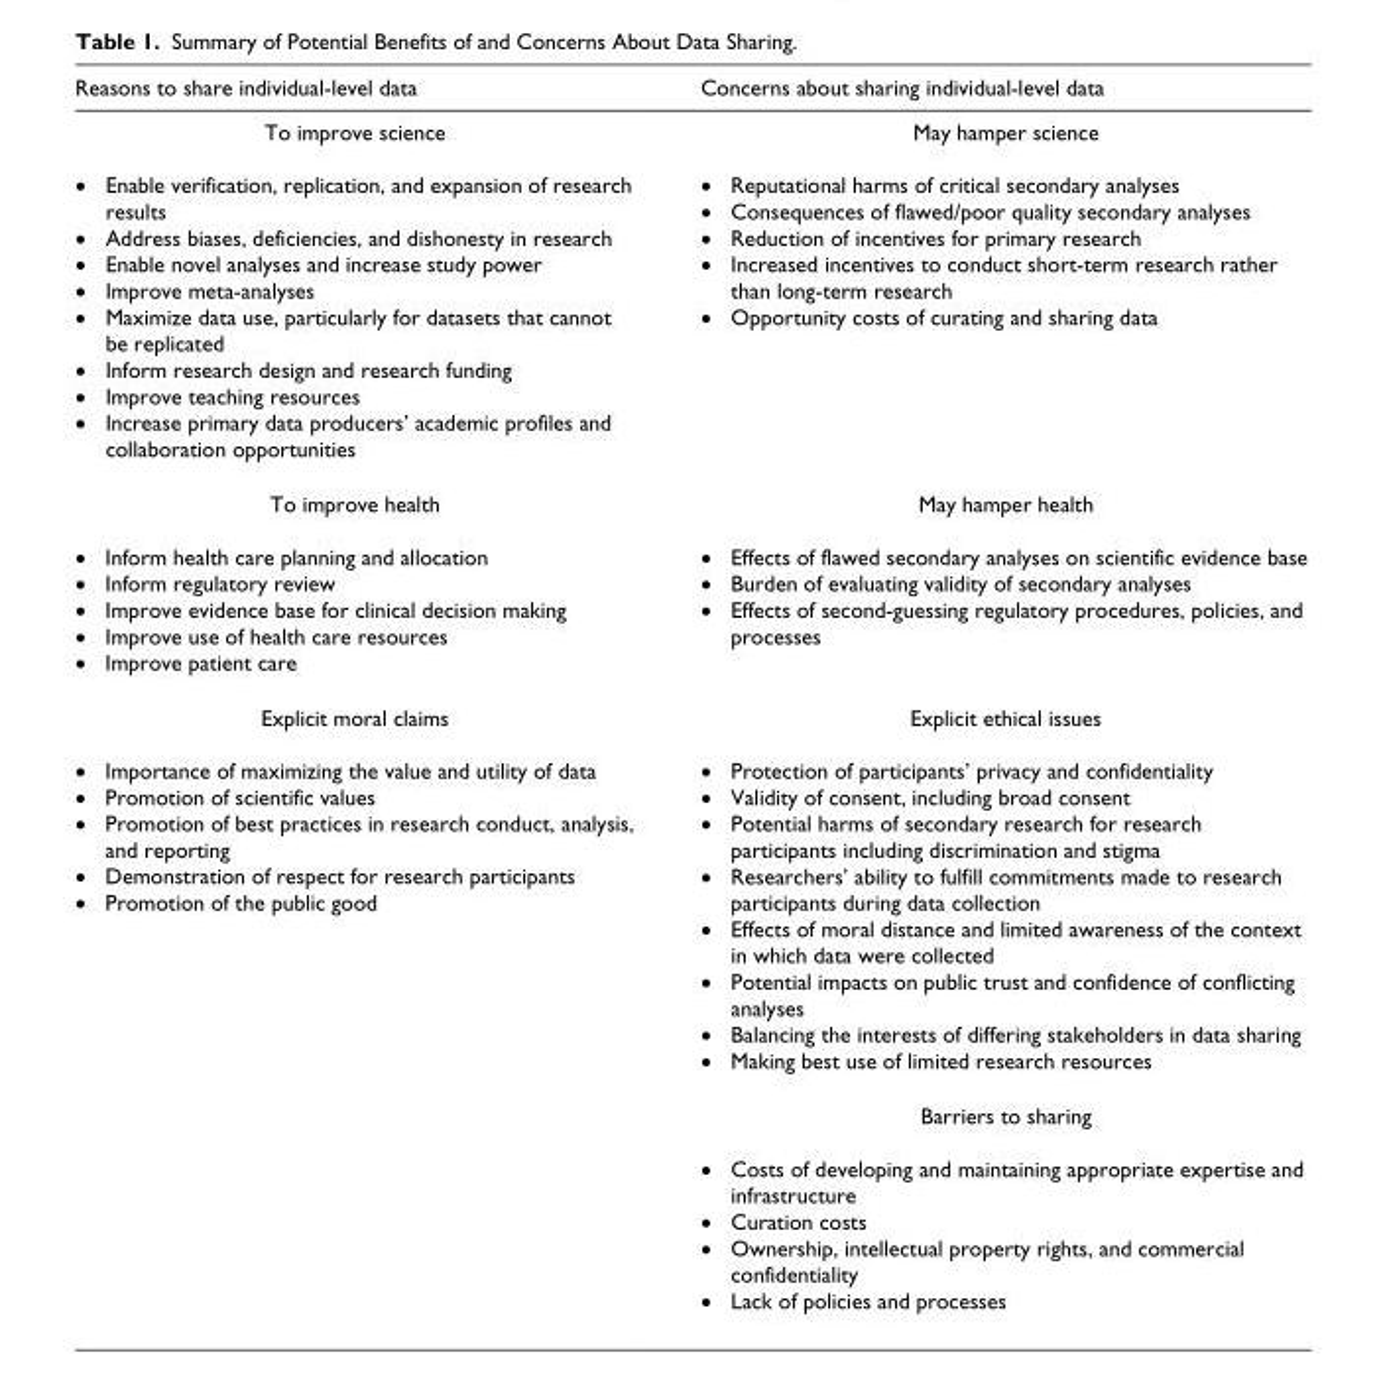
<table><thead><tr><td>Reasons to share individual-level data</td><td>Concerns about sharing individual-level data</td></tr></thead><tbody><tr><td>To improve science •• Enable verification, replication, and expansion of research results •• Address biases, deficiencies, and dishonesty in research •• Enable novel analyses and increase study power •• Improve meta-analyses •• Maximize data use, particularly for datasets that cannot be replicated •• Inform research design and research funding •• Improve teaching resources •• Increase primary data producers’ academic profiles and collaboration opportunities</td><td>May hamper science •• Reputational harms of critical secondary analyses •• Consequences of flawed/poor quality secondary analyses •• Reduction of incentives for primary research •• Increased incentives to conduct short-term research rather than long-term research •• Opportunity costs of curating and sharing data</td></tr><tr><td>To improve health •• Inform health care planning and allocation •• Inform regulatory review •• Improve evidence base for clinical decision making •• Improve use of health care resources •• Improve patient care</td><td>May hamper health •• Effects of flawed secondary analyses on scientific evidence base •• Burden of evaluating validity of secondary analyses •• Effects of second-guessing regulatory procedures, policies, and processes</td></tr><tr><td rowspan="2">Explicit moral claims •• Importance of maximizing the value and utility of data •• Promotion of scientific values •• Promotion of best practices in research conduct, analysis, and reporting •• Demonstration of respect for research participants •• Promotion of the public good</td><td>Explicit ethical issues •• Protection of participants’ privacy and confidentiality •• Validity of consent, including broad consent •• Potential harms of secondary research for research participants including discrimination and stigma •• Researchers’ ability to fulfill commitments made to research participants during data collection •• Effects of moral distance and limited awareness of the context in which data were collected •• Potential impacts on public trust and confidence of conflicting analyses •• Balancing the interests of differing stakeholders in data sharing •• Making best use of limited research resources</td></tr><tr><td>Barriers to sharing •• Costs of developing and maintaining appropriate expertise and infrastructure •• Curation costs •• Ownership, intellectual property rights, and commercial confidentiality •• Lack of policies and processes</td></tr></tbody></table>